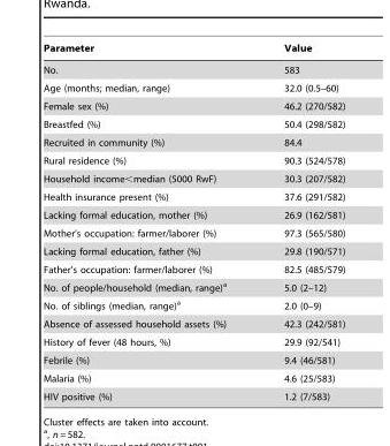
<table><thead><tr><td>Parameter</td><td>Value</td></tr></thead><tbody><tr><td>No.</td><td>583</td></tr><tr><td>Age (months; median, range)</td><td>32.0 (0.5–60)</td></tr><tr><td>Female sex (%)</td><td>46.2 (270/582)</td></tr><tr><td>Breastfed (%)</td><td>50.4 (298/582)</td></tr><tr><td>Recruited in community (%)</td><td>84.4</td></tr><tr><td>Rural residence (%)</td><td>90.3 (524/578)</td></tr><tr><td>Household income&lt;median (5000 RwF)</td><td>30.3 (207/582)</td></tr><tr><td>Health insurance present (%)</td><td>37.6 (291/582)</td></tr><tr><td>Lacking formal education, mother (%)</td><td>26.9 (162/581)</td></tr><tr><td>Mother’s occupation: farmer/laborer (%)</td><td>97.3 (565/580)</td></tr><tr><td>Lacking formal education, father (%)</td><td>29.8 (190/571)</td></tr><tr><td>Father’s occupation: farmer/laborer (%)</td><td>82.5 (485/579)</td></tr><tr><td>No. of people/household (median, range)<sup>a</sup></td><td>5.0 (2–12)</td></tr><tr><td>No. of siblings (median, range)<sup>a</sup></td><td>2.0 (0–9)</td></tr><tr><td>Absence of assessed household assets (%)</td><td>42.3 (242/581)</td></tr><tr><td>History of fever (48 hours, %)</td><td>29.9 (92/541)</td></tr><tr><td>Febrile (%)</td><td>9.4 (46/581)</td></tr><tr><td>Malaria (%)</td><td>4.6 (25/583)</td></tr><tr><td>HIV positive (%)</td><td>1.2 (7/583)</td></tr></tbody></table>